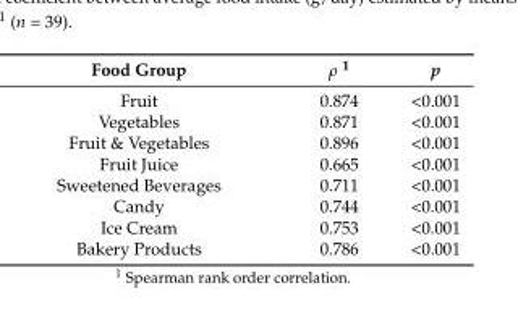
<table><thead><tr><td>Food Group</td><td>ρ <sup>1</sup></td><td>p</td></tr></thead><tbody><tr><td>Fruit</td><td>0.874</td><td>&lt;0.001</td></tr><tr><td>Vegetables</td><td>0.871</td><td>&lt;0.001</td></tr><tr><td>Fruit &amp; Vegetables</td><td>0.896</td><td>&lt;0.001</td></tr><tr><td>Fruit Juice</td><td>0.665</td><td>&lt;0.001</td></tr><tr><td>Sweetened Beverages</td><td>0.711</td><td>&lt;0.001</td></tr><tr><td>Candy</td><td>0.744</td><td>&lt;0.001</td></tr><tr><td>Ice Cream</td><td>0.753</td><td>&lt;0.001</td></tr><tr><td>Bakery Products</td><td>0.786</td><td>&lt;0.001</td></tr></tbody></table>